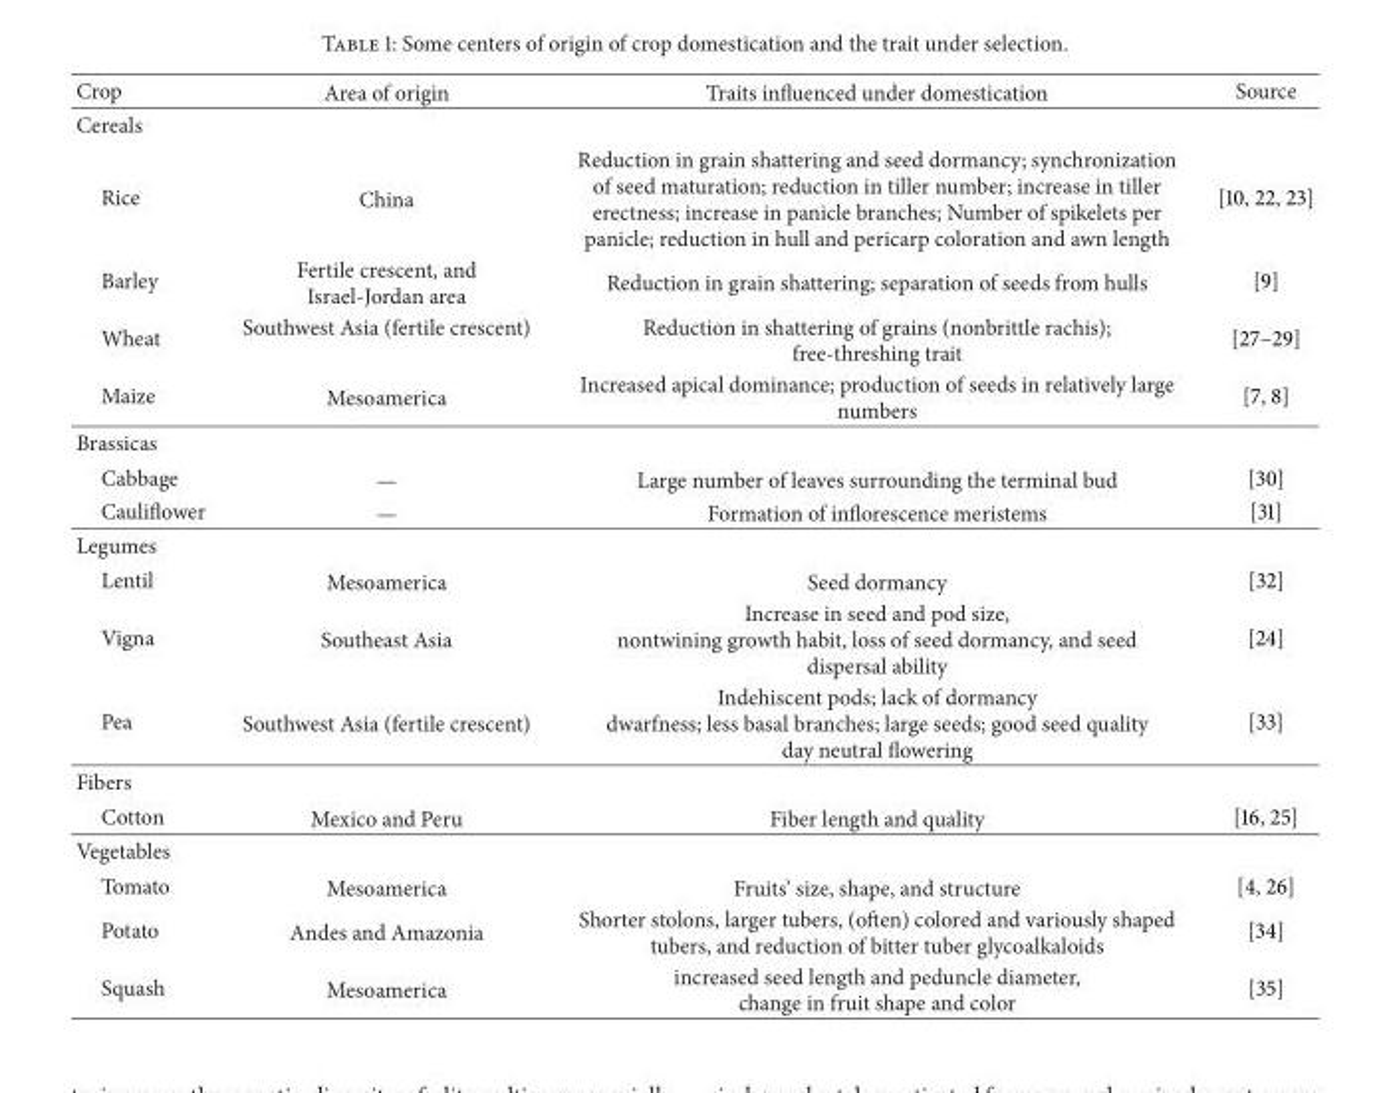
<table><thead><tr><td>Crop</td><td>Area of origin</td><td>Traits influenced under domestication</td><td>Source</td></tr></thead><tbody><tr><td colspan="4">Cereals</td></tr><tr><td>Rice</td><td>China</td><td>Reduction in grain shattering and seed dormancy; synchronization of seed maturation; reduction in tiller number; increase in tiller erectness; increase in panicle branches; Number of spikelets per panicle; reduction in hull and pericarp coloration and awn length</td><td>[10, 22, 23]</td></tr><tr><td>Barley</td><td>Fertile crescent, and Israel-Jordan area</td><td>Reduction in grain shattering; separation of seeds from hulls</td><td>[9]</td></tr><tr><td>Wheat</td><td>Southwest Asia (fertile crescent)</td><td>Reduction in shattering of grains (nonbrittle rachis); free-threshing trait</td><td>[27–29]</td></tr><tr><td>Maize</td><td>Mesoamerica</td><td>Increased apical dominance; production of seeds in relatively large numbers</td><td>[7, 8]</td></tr><tr><td colspan="4">Brassicas</td></tr><tr><td>Cabbage</td><td>—</td><td>Large number of leaves surrounding the terminal bud</td><td>[30]</td></tr><tr><td>Cauliflower</td><td>—</td><td>Formation of inflorescence meristems</td><td>[31]</td></tr><tr><td colspan="4">Legumes</td></tr><tr><td>Lentil</td><td>Mesoamerica</td><td>Seed dormancy</td><td>[32]</td></tr><tr><td>Vigna</td><td>Southeast Asia</td><td>Increase in seed and pod size, nontwining growth habit, loss of seed dormancy, and seed dispersal ability</td><td>[24]</td></tr><tr><td>Pea</td><td>Southwest Asia (fertile crescent)</td><td>Indehiscent pods; lack of dormancy dwarfness; less basal branches; large seeds; good seed quality day neutral flowering</td><td>[33]</td></tr><tr><td colspan="4">Fibers</td></tr><tr><td>Cotton</td><td>Mexico and Peru</td><td>Fiber length and quality</td><td>[16, 25]</td></tr><tr><td colspan="4">Vegetables</td></tr><tr><td>Tomato</td><td>Mesoamerica</td><td>Fruits’ size, shape, and structure</td><td>[4, 26]</td></tr><tr><td>Potato</td><td>Andes and Amazonia</td><td>Shorter stolons, larger tubers, (often) colored and variously shaped tubers, and reduction of bitter tuber glycoalkaloids</td><td>[34]</td></tr><tr><td>Squash</td><td>Mesoamerica</td><td>increased seed length and peduncle diameter, change in fruit shape and color</td><td>[35]</td></tr></tbody></table>